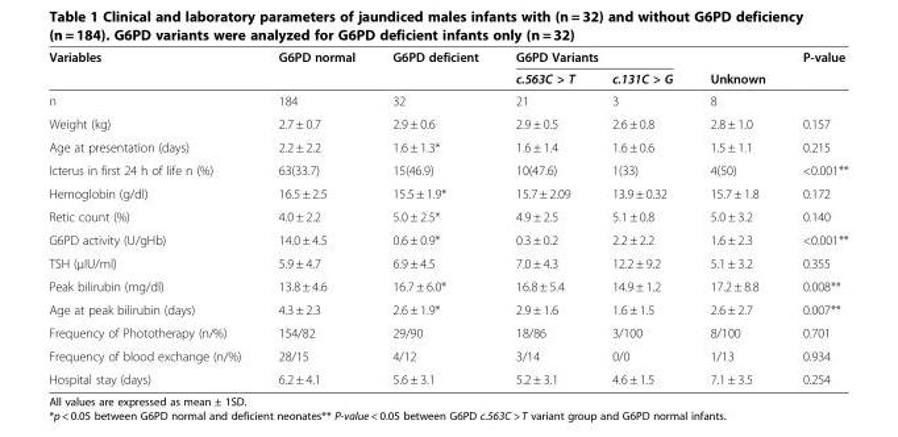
<table><thead><tr><td rowspan="2">Variables</td><td rowspan="2">G6PD normal</td><td rowspan="2">G6PD deficient</td><td colspan="2">G6PD Variants</td><td rowspan="2">Unknown</td><td rowspan="2">P-value</td></tr><tr><td>c.563C &gt; T</td><td>c.131C &gt; G</td></tr></thead><tbody><tr><td>n</td><td>184</td><td>32</td><td>21</td><td>3</td><td>8</td><td></td></tr><tr><td>Weight (kg)</td><td>2.7 ± 0.7</td><td>2.9 ± 0.6</td><td>2.9 ± 0.5</td><td>2.6 ± 0.8</td><td>2.8 ± 1.0</td><td>0.157</td></tr><tr><td>Age at presentation (days)</td><td>2.2 ± 2.2</td><td>1.6 ± 1.3*</td><td>1.6 ± 1.4</td><td>1.6 ± 0.6</td><td>1.5 ± 1.1</td><td>0.215</td></tr><tr><td>Icterus in first 24 h of life n (%)</td><td>63(33.7)</td><td>15(46.9)</td><td>10(47.6)</td><td>1(33)</td><td>4(50)</td><td>&lt;0.001**</td></tr><tr><td>Hemoglobin (g/dl)</td><td>16.5 ± 2.5</td><td>15.5 ± 1.9*</td><td>15.7 ± 2.09</td><td>13.9 ± 0.32</td><td>15.7 ± 1.8</td><td>0.172</td></tr><tr><td>Retic count (%)</td><td>4.0 ± 2.2</td><td>5.0 ± 2.5*</td><td>4.9 ± 2.5</td><td>5.1 ± 0.8</td><td>5.0 ± 3.2</td><td>0.140</td></tr><tr><td>G6PD activity (U/gHb)</td><td>14.0 ± 4.5</td><td>0.6 ± 0.9*</td><td>0.3 ± 0.2</td><td>2.2 ± 2.2</td><td>1.6 ± 2.3</td><td>&lt;0.001**</td></tr><tr><td>TSH (μIU/ml)</td><td>5.9 ± 4.7</td><td>6.9 ± 4.5</td><td>7.0 ± 4.3</td><td>12.2 ± 9.2</td><td>5.1 ± 3.2</td><td>0.355</td></tr><tr><td>Peak bilirubin (mg/dl)</td><td>13.8 ± 4.6</td><td>16.7 ± 6.0*</td><td>16.8 ± 5.4</td><td>14.9 ± 1.2</td><td>17.2 ± 8.8</td><td>0.008**</td></tr><tr><td>Age at peak bilirubin (days)</td><td>4.3 ± 2.3</td><td>2.6 ± 1.9*</td><td>2.9 ± 1.6</td><td>1.6 ± 1.5</td><td>2.6 ± 2.7</td><td>0.007**</td></tr><tr><td>Frequency of Phototherapy (n/%)</td><td>154/82</td><td>29/90</td><td>18/86</td><td>3/100</td><td>8/100</td><td>0.701</td></tr><tr><td>Frequency of blood exchange (n/%)</td><td>28/15</td><td>4/12</td><td>3/14</td><td>0/0</td><td>1/13</td><td>0.934</td></tr><tr><td>Hospital stay (days)</td><td>6.2 ± 4.1</td><td>5.6 ± 3.1</td><td>5.2 ± 3.1</td><td>4.6 ± 1.5</td><td>7.1 ± 3.5</td><td>0.254</td></tr></tbody></table>